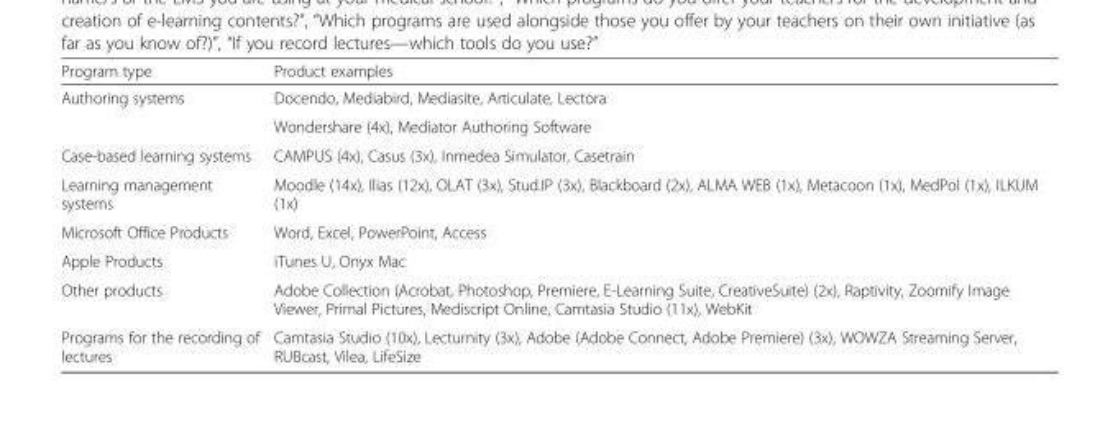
<table><thead><tr><td>Program type</td><td>Product examples</td></tr></thead><tbody><tr><td rowspan="2">Authoring systems</td><td>Docendo, Mediabird, Mediasite, Articulate, Lectora</td></tr><tr><td>Wondershare (4x), Mediator Authoring Software</td></tr><tr><td>Case-based learning systems</td><td>CAMPUS (4x), Casus (3x), Inmedea Simulator, Casetrain</td></tr><tr><td>Learning management systems</td><td>Moodle (14x), Ilias (12x), OLAT (3x), Stud.IP (3x), Blackboard (2x), ALMA WEB (1x), Metacoon (1x), MedPol (1x), ILKUM (1x)</td></tr><tr><td>Microsoft Office Products</td><td>Word, Excel, PowerPoint, Access</td></tr><tr><td>Apple Products</td><td>iTunes U, Onyx Mac</td></tr><tr><td>Other products</td><td>Adobe Collection (Acrobat, Photoshop, Premiere, E-Learning Suite, CreativeSuite) (2x), Raptivity, Zoomify Image Viewer, Primal Pictures, Mediscript Online, Camtasia Studio (11x), WebKit</td></tr><tr><td>Programs for the recording of lectures</td><td>Camtasia Studio (10x), Lecturnity (3x), Adobe (Adobe Connect, Adobe Premiere) (3x), WOWZA Streaming Server, RUBcast, Vilea, LifeSize</td></tr></tbody></table>